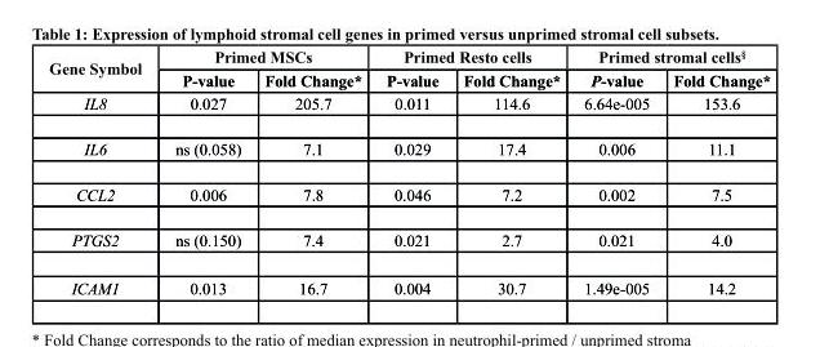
<table><thead><tr><td rowspan="2">Gene Symbol</td><td colspan="2">Primed Mscs</td><td colspan="2">Primed resto cells</td><td colspan="2">Primed stromal cells<sup>§</sup></td></tr><tr><td>P-value</td><td>Fold change*</td><td>P-value</td><td>Fold change*</td><td>P-value</td><td>Fold change*</td></tr></thead><tbody><tr><td>IL8</td><td>0.027</td><td>205.7</td><td>0.011</td><td>114.6</td><td>6.64e-005</td><td>153.6</td></tr><tr><td>IL6</td><td>ns (0.058)</td><td>7.1</td><td>0.029</td><td>17.4</td><td>0.006</td><td>11.1</td></tr><tr><td>CCL2</td><td>0.006</td><td>7.8</td><td>0.046</td><td>7.2</td><td>0.002</td><td>7.5</td></tr><tr><td>PTGS2</td><td>ns (0.150)</td><td>7.4</td><td>0.021</td><td>2.7</td><td>0.021</td><td>4.0</td></tr><tr><td>ICAM1</td><td>0.013</td><td>16.7</td><td>0.004</td><td>30.7</td><td>1.49e-005</td><td>14.2</td></tr></tbody></table>